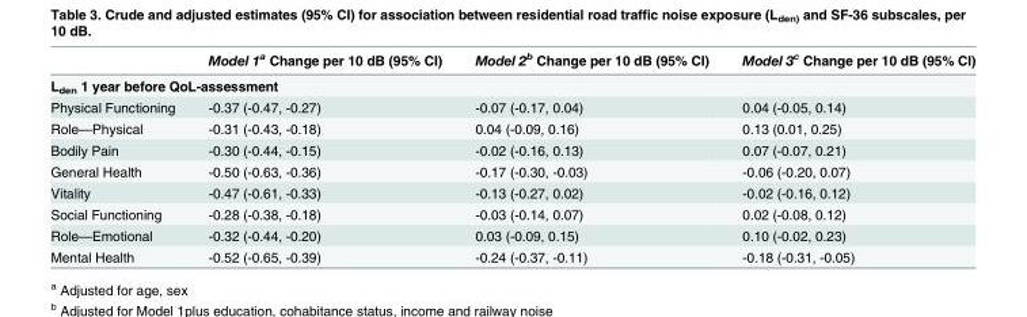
<table><thead><tr><td></td><td>Model 1<sup>a</sup> Change per 10 dB (95% CI)</td><td>Model 2<sup>b</sup> Change per 10 dB (95% CI)</td><td>Model 3<sup>c</sup> Change per 10 dB (95% CI)</td></tr></thead><tbody><tr><td colspan="4">L<sub>den</sub> 1 year before QoL-assessment</td></tr><tr><td>Physical Functioning</td><td>-0.37 (-0.47, -0.27)</td><td>-0.07 (-0.17, 0.04)</td><td>0.04 (-0.05, 0.14)</td></tr><tr><td>Role—Physical</td><td>-0.31 (-0.43, -0.18)</td><td>0.04 (-0.09, 0.16)</td><td>0.13 (0.01, 0.25)</td></tr><tr><td>Bodily Pain</td><td>-0.30 (-0.44, -0.15)</td><td>-0.02 (-0.16, 0.13)</td><td>0.07 (-0.07, 0.21)</td></tr><tr><td>General Health</td><td>-0.50 (-0.63, -0.36)</td><td>-0.17 (-0.30, -0.03)</td><td>-0.06 (-0.20, 0.07)</td></tr><tr><td>Vitality</td><td>-0.47 (-0.61, -0.33)</td><td>-0.13 (-0.27, 0.02)</td><td>-0.02 (-0.16, 0.12)</td></tr><tr><td>Social Functioning</td><td>-0.28 (-0.38, -0.18)</td><td>-0.03 (-0.14, 0.07)</td><td>0.02 (-0.08, 0.12)</td></tr><tr><td>Role—Emotional</td><td>-0.32 (-0.44, -0.20)</td><td>0.03 (-0.09, 0.15)</td><td>0.10 (-0.02, 0.23)</td></tr><tr><td>Mental Health</td><td>-0.52 (-0.65, -0.39)</td><td>-0.24 (-0.37, -0.11)</td><td>-0.18 (-0.31, -0.05)</td></tr></tbody></table>